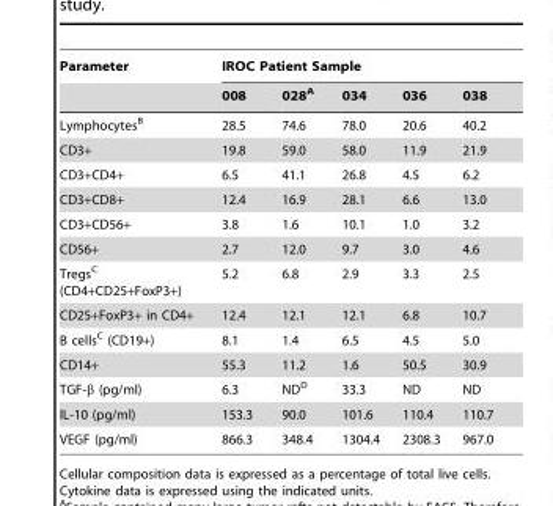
<table><thead><tr><td rowspan="2">Parameter</td><td colspan="5">IROC Patient Sample</td></tr><tr><td>008</td><td>028<sup>A</sup></td><td>034</td><td>036</td><td>038</td></tr></thead><tbody><tr><td>Lymphocytes<sup>B</sup></td><td>28.5</td><td>74.6</td><td>78.0</td><td>20.6</td><td>40.2</td></tr><tr><td>CD3+</td><td>19.8</td><td>59.0</td><td>58.0</td><td>11.9</td><td>21.9</td></tr><tr><td>CD3+CD4+</td><td>6.5</td><td>41.1</td><td>26.8</td><td>4.5</td><td>6.2</td></tr><tr><td>CD3+CD8+</td><td>12.4</td><td>16.9</td><td>28.1</td><td>6.6</td><td>13.0</td></tr><tr><td>CD3+CD56+</td><td>3.8</td><td>1.6</td><td>10.1</td><td>1.0</td><td>3.2</td></tr><tr><td>CD56+</td><td>2.7</td><td>12.0</td><td>9.7</td><td>3.0</td><td>4.6</td></tr><tr><td>Tregs<sup>C</sup> (CD4+CD25+FoxP3+)</td><td>5.2</td><td>6.8</td><td>2.9</td><td>3.3</td><td>2.5</td></tr><tr><td>CD25+FoxP3+ in CD4+</td><td>12.4</td><td>12.1</td><td>12.1</td><td>6.8</td><td>10.7</td></tr><tr><td>B cells<sup>C</sup> (CD19+)</td><td>8.1</td><td>1.4</td><td>6.5</td><td>4.5</td><td>5.0</td></tr><tr><td>CD14+</td><td>55.3</td><td>11.2</td><td>1.6</td><td>50.5</td><td>30.9</td></tr><tr><td>TGF-β (pg/ml)</td><td>6.3</td><td>ND<sup>D</sup></td><td>33.3</td><td>ND</td><td>ND</td></tr><tr><td>IL-10 (pg/ml)</td><td>153.3</td><td>90.0</td><td>101.6</td><td>110.4</td><td>110.7</td></tr><tr><td>VEGF (pg/ml)</td><td>866.3</td><td>348.4</td><td>1304.4</td><td>2308.3</td><td>967.0</td></tr></tbody></table>